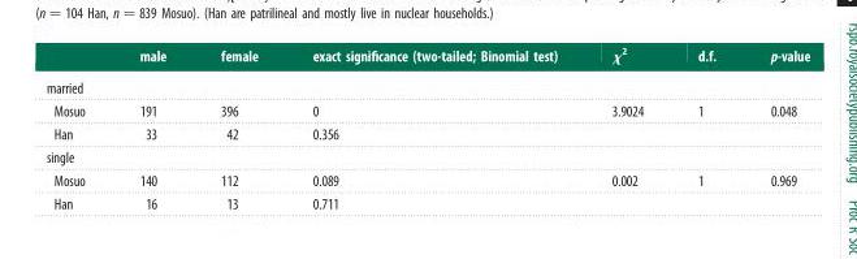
<table><thead><tr><td></td><td>male</td><td>female</td><td>exact significance (two-tailed; Binomial test)</td><td>χ<sup>2</sup></td><td>d.f.</td><td>p-value</td></tr></thead><tbody><tr><td colspan="7">married</td></tr><tr><td>Mosuo</td><td>191</td><td>396</td><td>0</td><td>3.9024</td><td>1</td><td>0.048</td></tr><tr><td>Han</td><td>33</td><td>42</td><td>0.356</td><td></td><td></td><td></td></tr><tr><td colspan="7">single</td></tr><tr><td>Mosuo</td><td>140</td><td>112</td><td>0.089</td><td>0.002</td><td>1</td><td>0.969</td></tr><tr><td>Han</td><td>16</td><td>13</td><td>0.711</td><td></td><td></td><td></td></tr></tbody></table>